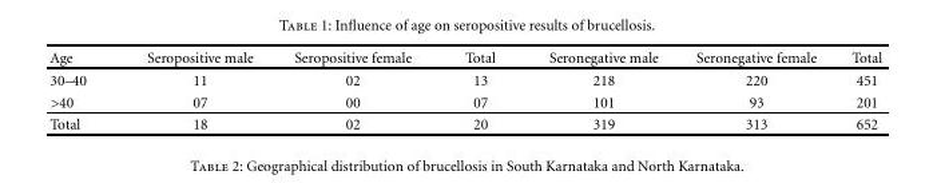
<table><thead><tr><td>Age</td><td>Seropositive male</td><td>Seropositive female</td><td>Total</td><td>Seronegative male</td><td>Seronegative female</td><td>Total</td></tr></thead><tbody><tr><td>30–40</td><td>11</td><td>02</td><td>13</td><td>218</td><td>220</td><td>451</td></tr><tr><td>&gt;40</td><td>07</td><td>00</td><td>07</td><td>101</td><td>93</td><td>201</td></tr><tr><td>Total</td><td>18</td><td>02</td><td>20</td><td>319</td><td>313</td><td>652</td></tr></tbody></table>